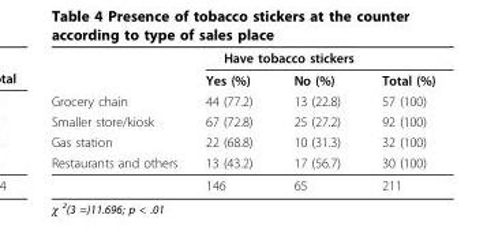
<table><thead><tr><td rowspan="6">Grocery chain Smaller store/kiosk Gas station Restaurants and others</td><td colspan="2">Have tobacco stickers</td><td rowspan="6">Total (%) 57 (100) 92 (100) 32 (100) 30 (100)</td></tr><tr><td rowspan="5">Yes (%) 44 (77.2) 67 (72.8) 22 (68.8) 13 (43.2)</td><td rowspan="5">No (%) 13 (22.8) 25 (27.2) 10 (31.3) 17 (56.7)</td></tr><tr></tr><tr></tr><tr></tr><tr></tr></thead><tbody><tr><td></td><td>146</td><td>65</td><td>211</td></tr></tbody></table>